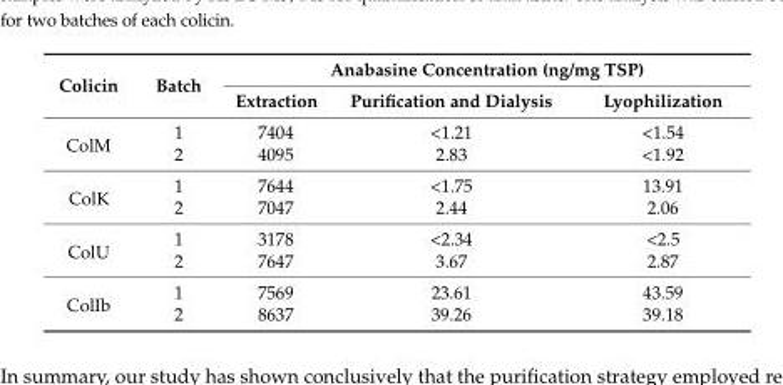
<table><thead><tr><td rowspan="2">Colicin</td><td rowspan="2">Batch</td><td colspan="3">Anabasine Concentration (ng/mg TSP)</td></tr><tr><td>Extraction</td><td>Purification and Dialysis</td><td>Lyophilization</td></tr></thead><tbody><tr><td rowspan="2">ColM</td><td>1</td><td>7404</td><td>&lt;1.21</td><td>&lt;1.54</td></tr><tr><td>2</td><td>4095</td><td>2.83</td><td>&lt;1.92</td></tr><tr><td rowspan="2">ColK</td><td>1</td><td>7644</td><td>&lt;1.75</td><td>13.91</td></tr><tr><td>2</td><td>7047</td><td>2.44</td><td>2.06</td></tr><tr><td rowspan="2">ColU</td><td>1</td><td>3178</td><td>&lt;2.34</td><td>&lt;2.5</td></tr><tr><td>2</td><td>7647</td><td>3.67</td><td>2.87</td></tr><tr><td rowspan="2">ColIb</td><td>1</td><td>7569</td><td>23.61</td><td>43.59</td></tr><tr><td>2</td><td>8637</td><td>39.26</td><td>39.18</td></tr></tbody></table>